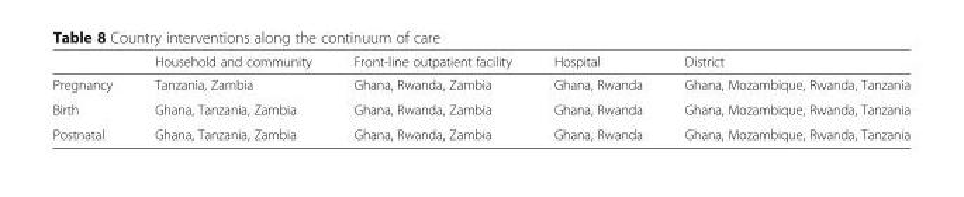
<table><thead><tr><td></td><td>Household and community</td><td>Front-line outpatient facility</td><td>Hospital</td><td>District</td></tr></thead><tbody><tr><td>Pregnancy</td><td>Tanzania, Zambia</td><td>Ghana, Rwanda, Zambia</td><td>Ghana, Rwanda</td><td>Ghana, Mozambique, Rwanda, Tanzania</td></tr><tr><td>Birth</td><td>Ghana, Tanzania, Zambia</td><td>Ghana, Rwanda, Zambia</td><td>Ghana, Rwanda</td><td>Ghana, Mozambique, Rwanda, Tanzania</td></tr><tr><td>Postnatal</td><td>Ghana, Tanzania, Zambia</td><td>Ghana, Rwanda, Zambia</td><td>Ghana, Rwanda</td><td>Ghana, Mozambique, Rwanda, Tanzania</td></tr></tbody></table>